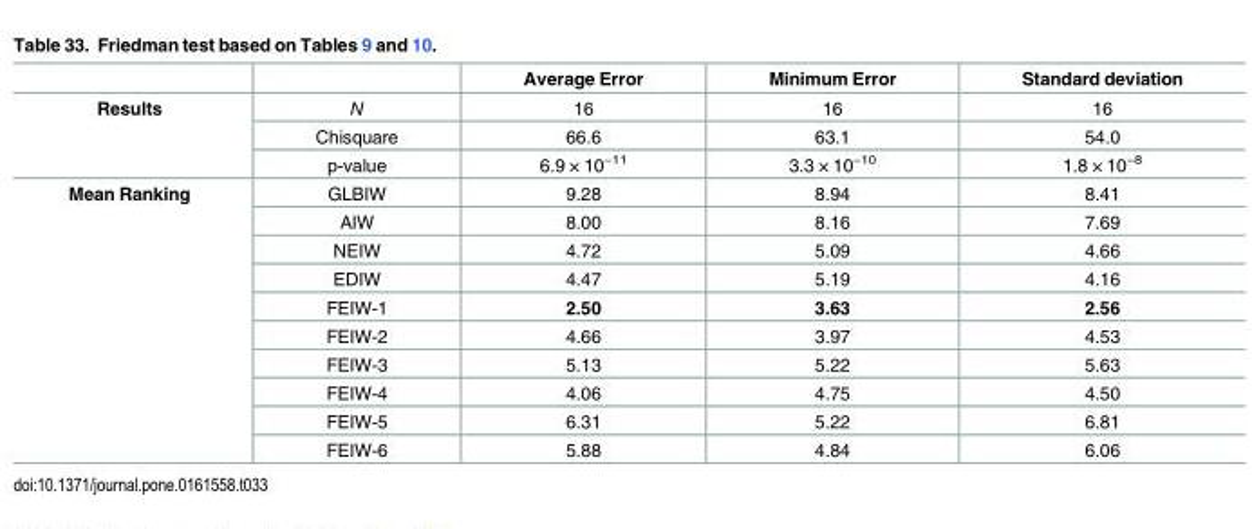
<table><thead><tr><td></td><td></td><td>Average Error</td><td>Minimum Error</td><td>Standard deviation</td></tr></thead><tbody><tr><td rowspan="3">Results</td><td>N</td><td>16</td><td>16</td><td>16</td></tr><tr><td>Chisquare</td><td>66.6</td><td>63.1</td><td>54.0</td></tr><tr><td>p-value</td><td>6.9 × 10<sup>−11</sup></td><td>3.3 × 10<sup>−10</sup></td><td>1.8 × 10<sup>−8</sup></td></tr><tr><td rowspan="10">Mean Ranking</td><td>GLBIW</td><td>9.28</td><td>8.94</td><td>8.41</td></tr><tr><td>AIW</td><td>8.00</td><td>8.16</td><td>7.69</td></tr><tr><td>NEIW</td><td>4.72</td><td>5.09</td><td>4.66</td></tr><tr><td>EDIW</td><td>4.47</td><td>5.19</td><td>4.16</td></tr><tr><td>FEIW-1</td><td>2.50</td><td>3.63</td><td>2.56</td></tr><tr><td>FEIW-2</td><td>4.66</td><td>3.97</td><td>4.53</td></tr><tr><td>FEIW-3</td><td>5.13</td><td>5.22</td><td>5.63</td></tr><tr><td>FEIW-4</td><td>4.06</td><td>4.75</td><td>4.50</td></tr><tr><td>FEIW-5</td><td>6.31</td><td>5.22</td><td>6.81</td></tr><tr><td>FEIW-6</td><td>5.88</td><td>4.84</td><td>6.06</td></tr></tbody></table>